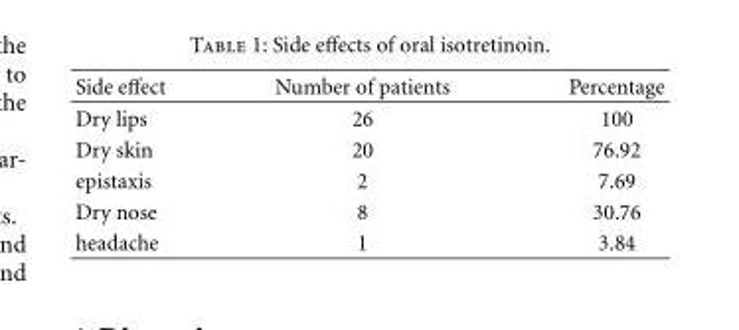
<table><thead><tr><td>Side effect</td><td>Number of patients</td><td>Percentage</td></tr></thead><tbody><tr><td>Dry lips</td><td>26</td><td>100</td></tr><tr><td>Dry skin</td><td>20</td><td>76.92</td></tr><tr><td>epistaxis</td><td>2</td><td>7.69</td></tr><tr><td>Dry nose</td><td>8</td><td>30.76</td></tr><tr><td>headache</td><td>1</td><td>3.84</td></tr></tbody></table>